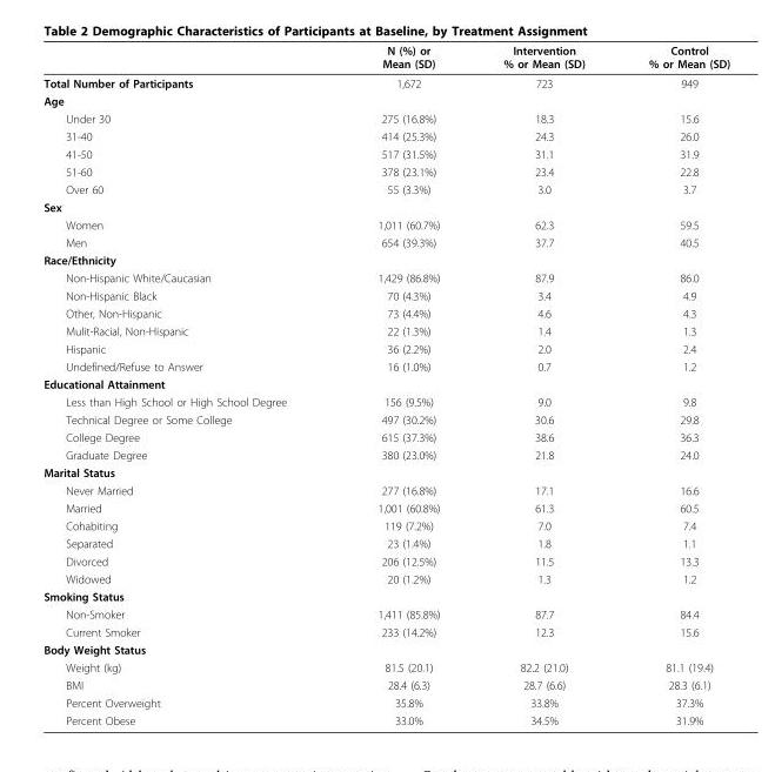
<table><thead><tr><td></td><td>N (%) or Mean (SD)</td><td>Intervention % or Mean (SD)</td><td>Control % or Mean (SD)</td></tr></thead><tbody><tr><td>Total Number of Participants</td><td>1,672</td><td>723</td><td>949</td></tr><tr><td colspan="4">Age</td></tr><tr><td>Under 30</td><td>275 (16.8%)</td><td>18.3</td><td>15.6</td></tr><tr><td>31-40</td><td>414 (25.3%)</td><td>24.3</td><td>26.0</td></tr><tr><td>41-50</td><td>517 (31.5%)</td><td>31.1</td><td>31.9</td></tr><tr><td>51-60</td><td>378 (23.1%)</td><td>23.4</td><td>22.8</td></tr><tr><td>Over 60</td><td>55 (3.3%)</td><td>3.0</td><td>3.7</td></tr><tr><td colspan="4">Sex</td></tr><tr><td>Women</td><td>1,011 (60.7%)</td><td>62.3</td><td>59.5</td></tr><tr><td>Men</td><td>654 (39.3%)</td><td>37.7</td><td>40.5</td></tr><tr><td colspan="4">Race/Ethnicity</td></tr><tr><td>Non-Hispanic White/Caucasian</td><td>1,429 (86.8%)</td><td>87.9</td><td>86.0</td></tr><tr><td>Non-Hispanic Black</td><td>70 (4.3%)</td><td>3.4</td><td>4.9</td></tr><tr><td>Other, Non-Hispanic</td><td>73 (4.4%)</td><td>4.6</td><td>4.3</td></tr><tr><td>Mulit-Racial, Non-Hispanic</td><td>22 (1.3%)</td><td>1.4</td><td>1.3</td></tr><tr><td>Hispanic</td><td>36 (2.2%)</td><td>2.0</td><td>2.4</td></tr><tr><td>Undefined/Refuse to Answer</td><td>16 (1.0%)</td><td>0.7</td><td>1.2</td></tr><tr><td colspan="4">Educational Attainment</td></tr><tr><td>Less than High School or High School Degree</td><td>156 (9.5%)</td><td>9.0</td><td>9.8</td></tr><tr><td>Technical Degree or Some College</td><td>497 (30.2%)</td><td>30.6</td><td>29.8</td></tr><tr><td>College Degree</td><td>615 (37.3%)</td><td>38.6</td><td>36.3</td></tr><tr><td>Graduate Degree</td><td>380 (23.0%)</td><td>21.8</td><td>24.0</td></tr><tr><td colspan="4">Marital Status</td></tr><tr><td>Never Married</td><td>277 (16.8%)</td><td>17.1</td><td>16.6</td></tr><tr><td>Married</td><td>1,001 (60.8%)</td><td>61.3</td><td>60.5</td></tr><tr><td>Cohabiting</td><td>119 (7.2%)</td><td>7.0</td><td>7.4</td></tr><tr><td>Separated</td><td>23 (1.4%)</td><td>1.8</td><td>1.1</td></tr><tr><td>Divorced</td><td>206 (12.5%)</td><td>11.5</td><td>13.3</td></tr><tr><td>Widowed</td><td>20 (1.2%)</td><td>1.3</td><td>1.2</td></tr><tr><td colspan="4">Smoking Status</td></tr><tr><td>Non-Smoker</td><td>1,411 (85.8%)</td><td>87.7</td><td>84.4</td></tr><tr><td>Current Smoker</td><td>233 (14.2%)</td><td>12.3</td><td>15.6</td></tr><tr><td colspan="4">Body Weight Status</td></tr><tr><td>Weight (kg)</td><td>81.5 (20.1)</td><td>82.2 (21.0)</td><td>81.1 (19.4)</td></tr><tr><td>BMI</td><td>28.4 (6.3)</td><td>28.7 (6.6)</td><td>28.3 (6.1)</td></tr><tr><td>Percent Overweight</td><td>35.8%</td><td>33.8%</td><td>37.3%</td></tr><tr><td>Percent Obese</td><td>33.0%</td><td>34.5%</td><td>31.9%</td></tr></tbody></table>